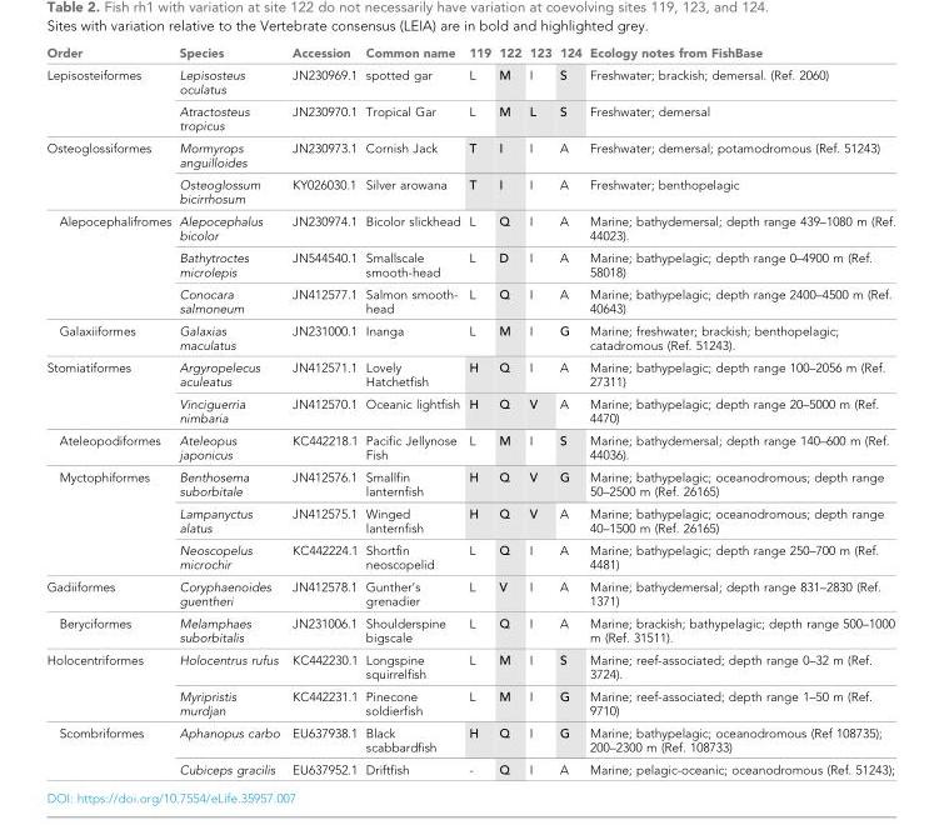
<table><thead><tr><td>Order</td><td>Species</td><td>Accession</td><td>Common name</td><td>119</td><td>122</td><td>123</td><td>124</td><td>Ecology notes from FishBase</td></tr></thead><tbody><tr><td rowspan="2">Lepisosteiformes</td><td>Lepisosteus oculatus</td><td>JN230969.1</td><td>spotted gar</td><td>L</td><td>M</td><td>I</td><td>S</td><td>Freshwater; brackish; demersal. (Ref. 2060)</td></tr><tr><td>Atractosteus tropicus</td><td>JN230970.1</td><td>Tropical Gar</td><td>L</td><td>M</td><td>L</td><td>S</td><td>Freshwater; demersal</td></tr><tr><td rowspan="2">Osteoglossiformes</td><td>Mormyrops anguilloides</td><td>JN230973.1</td><td>Cornish Jack</td><td>T</td><td>I</td><td>I</td><td>A</td><td>Freshwater; demersal; potamodromous (Ref. 51243)</td></tr><tr><td>Osteoglossum bicirrhosum</td><td>KY026030.1</td><td>Silver arowana</td><td>T</td><td>I</td><td>I</td><td>A</td><td>Freshwater; benthopelagic</td></tr><tr><td rowspan="3">Alepocephalifromes</td><td>Alepocephalus bicolor</td><td>JN230974.1</td><td>Bicolor slickhead</td><td>L</td><td>Q</td><td>I</td><td>A</td><td>Marine; bathydemersal; depth range 439–1080 m (Ref. 44023).</td></tr><tr><td>Bathytroctes microlepis</td><td>JN544540.1</td><td>Smallscale smooth-head</td><td>L</td><td>D</td><td>I</td><td>A</td><td>Marine; bathypelagic; depth range 0–4900 m (Ref. 58018)</td></tr><tr><td>Conocara salmoneum</td><td>JN412577.1</td><td>Salmon smooth- head</td><td>L</td><td>Q</td><td>I</td><td>A</td><td>Marine; bathypelagic; depth range 2400–4500 m (Ref. 40643)</td></tr><tr><td>Galaxiiformes</td><td>Galaxias maculatus</td><td>JN231000.1</td><td>Inanga</td><td>L</td><td>M</td><td>I</td><td>G</td><td>Marine; freshwater; brackish; benthopelagic; catadromous (Ref. 51243).</td></tr><tr><td rowspan="2">Stomiatiformes</td><td>Argyropelecus aculeatus</td><td>JN412571.1</td><td>Lovely Hatchetfish</td><td>H</td><td>Q</td><td>I</td><td>A</td><td>Marine; bathypelagic; depth range 100–2056 m (Ref. 27311)</td></tr><tr><td>Vinciguerria nimbaria</td><td>JN412570.1</td><td>Oceanic lightfish</td><td>H</td><td>Q</td><td>V</td><td>A</td><td>Marine; bathypelagic; depth range 20–5000 m (Ref. 4470)</td></tr><tr><td>Ateleopodiformes</td><td>Ateleopus japonicus</td><td>KC442218.1</td><td>Pacific Jellynose Fish</td><td>L</td><td>M</td><td>I</td><td>S</td><td>Marine; bathydemersal; depth range 140–600 m (Ref. 44036).</td></tr><tr><td rowspan="3">Myctophiformes</td><td>Benthosema suborbitale</td><td>JN412576.1</td><td>Smallfin lanternfish</td><td>H</td><td>Q</td><td>V</td><td>G</td><td>Marine; bathypelagic; oceanodromous; depth range 50–2500 m (Ref. 26165)</td></tr><tr><td>Lampanyctus alatus</td><td>JN412575.1</td><td>Winged lanternfish</td><td>H</td><td>Q</td><td>V</td><td>A</td><td>Marine; bathypelagic; oceanodromous; depth range 40–1500 m (Ref. 26165)</td></tr><tr><td>Neoscopelus microchir</td><td>KC442224.1</td><td>Shortfin neoscopelid</td><td>L</td><td>Q</td><td>I</td><td>A</td><td>Marine; bathypelagic; depth range 250–700 m (Ref. 4481)</td></tr><tr><td>Gadiiformes</td><td>Coryphaenoides guentheri</td><td>JN412578.1</td><td>Gunther’s grenadier</td><td>L</td><td>V</td><td>I</td><td>A</td><td>Marine; bathydemersal; depth range 831–2830 (Ref. 1371)</td></tr><tr><td>Beryciformes</td><td>Melamphaes suborbitalis</td><td>JN231006.1</td><td>Shoulderspine bigscale</td><td>L</td><td>Q</td><td>I</td><td>A</td><td>Marine; brackish; bathypelagic; depth range 500–1000 m (Ref. 31511).</td></tr><tr><td rowspan="2">Holocentriformes</td><td>Holocentrus rufus</td><td>KC442230.1</td><td>Longspine squirrelfish</td><td>L</td><td>M</td><td>I</td><td>S</td><td>Marine; reef-associated; depth range 0–32 m (Ref. 3724).</td></tr><tr><td>Myripristis murdjan</td><td>KC442231.1</td><td>Pinecone soldierfish</td><td>L</td><td>M</td><td>I</td><td>G</td><td>Marine; reef-associated; depth range 1–50 m (Ref. 9710)</td></tr><tr><td rowspan="2">Scombriformes</td><td>Aphanopus carbo</td><td>EU637938.1</td><td>Black scabbardfish</td><td>H</td><td>Q</td><td>I</td><td>G</td><td>Marine; bathypelagic; oceanodromous (Ref 108735); 200–2300 m (Ref. 108733)</td></tr><tr><td>Cubiceps gracilis</td><td>EU637952.1</td><td>Driftfish</td><td>-</td><td>Q</td><td>I</td><td>A</td><td>Marine; pelagic-oceanic; oceanodromous (Ref. 51243);</td></tr></tbody></table>